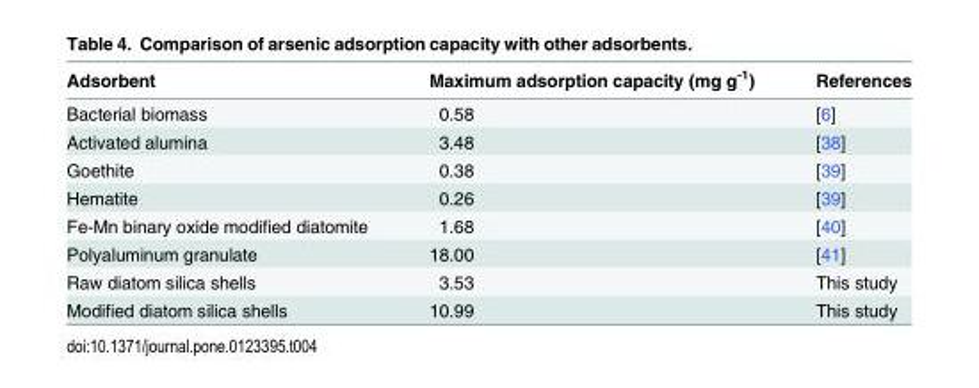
<table><thead><tr><td>Adsorbent</td><td>Maximum adsorption capacity (mg g<sup>-1</sup>)</td><td>References</td></tr></thead><tbody><tr><td>Bacterial biomass</td><td>0.58</td><td>[6]</td></tr><tr><td>Activated alumina</td><td>3.48</td><td>[38]</td></tr><tr><td>Goethite</td><td>0.38</td><td>[39]</td></tr><tr><td>Hematite</td><td>0.26</td><td>[39]</td></tr><tr><td>Fe-Mn binary oxide modified diatomite</td><td>1.68</td><td>[40]</td></tr><tr><td>Polyaluminum granulate</td><td>18.00</td><td>[41]</td></tr><tr><td>Raw diatom silica shells</td><td>3.53</td><td>This study</td></tr><tr><td>Modified diatom silica shells</td><td>10.99</td><td>This study</td></tr></tbody></table>